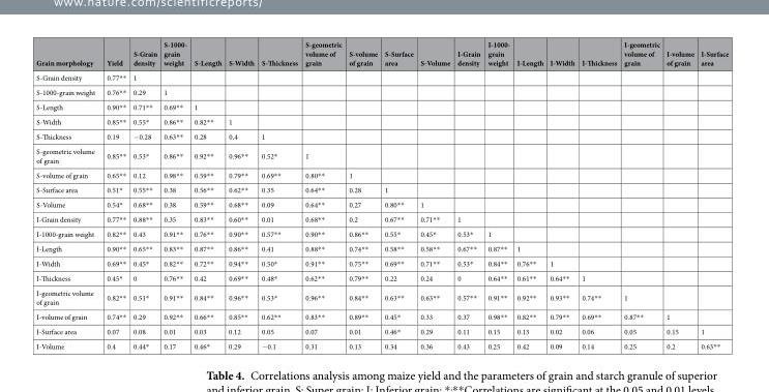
<table><thead><tr><td>Grain morphology</td><td>Yield</td><td>S-Grain density</td><td>S-1000- grain weight</td><td>S-Length</td><td>S-Width</td><td>S-Thickness</td><td>S-geometric volume of grain</td><td>S-volume of grain</td><td>S-Surface area</td><td>S-Volume</td><td>I-Grain density</td><td>I-1000- grain weight</td><td>I-Length</td><td>I-Width</td><td>I-Thickness</td><td>I-geometric volume of grain</td><td>I-volume of grain</td><td>I-Surface area</td></tr></thead><tbody><tr><td>S-Grain density</td><td>0.77**</td><td>1</td><td></td><td></td><td></td><td></td><td></td><td></td><td></td><td></td><td></td><td></td><td></td><td></td><td></td><td></td><td></td><td></td></tr><tr><td>S-1000-grain weight</td><td>0.76**</td><td>0.29</td><td>1</td><td></td><td></td><td></td><td></td><td></td><td></td><td></td><td></td><td></td><td></td><td></td><td></td><td></td><td></td><td></td></tr><tr><td>S-Length</td><td>0.90**</td><td>0.71**</td><td>0.69**</td><td>1</td><td></td><td></td><td></td><td></td><td></td><td></td><td></td><td></td><td></td><td></td><td></td><td></td><td></td><td></td></tr><tr><td>S-Width</td><td>0.85**</td><td>0.55*</td><td>0.86**</td><td>0.82**</td><td>1</td><td></td><td></td><td></td><td></td><td></td><td></td><td></td><td></td><td></td><td></td><td></td><td></td><td></td></tr><tr><td>S-Thickness</td><td>0.19</td><td>−0.28</td><td>0.63**</td><td>0.28</td><td>0.4</td><td>1</td><td></td><td></td><td></td><td></td><td></td><td></td><td></td><td></td><td></td><td></td><td></td><td></td></tr><tr><td>S-geometric volume of grain</td><td>0.85**</td><td>0.53*</td><td>0.86**</td><td>0.92**</td><td>0.96**</td><td>0.52*</td><td>1</td><td></td><td></td><td></td><td></td><td></td><td></td><td></td><td></td><td></td><td></td><td></td></tr><tr><td>S-volume of grain</td><td>0.65**</td><td>0.12</td><td>0.98**</td><td>0.59**</td><td>0.79**</td><td>0.69**</td><td>0.80**</td><td>1</td><td></td><td></td><td></td><td></td><td></td><td></td><td></td><td></td><td></td><td></td></tr><tr><td>S-Surface area</td><td>0.51*</td><td>0.55**</td><td>0.38</td><td>0.56**</td><td>0.62**</td><td>0.35</td><td>0.64**</td><td>0.28</td><td>1</td><td></td><td></td><td></td><td></td><td></td><td></td><td></td><td></td><td></td></tr><tr><td>S-Volume</td><td>0.54*</td><td>0.68**</td><td>0.38</td><td>0.59**</td><td>0.68**</td><td>0.09</td><td>0.64**</td><td>0.27</td><td>0.80**</td><td>1</td><td></td><td></td><td></td><td></td><td></td><td></td><td></td><td></td></tr><tr><td>I-Grain density</td><td>0.77**</td><td>0.88**</td><td>0.35</td><td>0.83**</td><td>0.60**</td><td>0.01</td><td>0.68**</td><td>0.2</td><td>0.67**</td><td>0.71**</td><td>1</td><td></td><td></td><td></td><td></td><td></td><td></td><td></td></tr><tr><td>I-1000-grain weight</td><td>0.82**</td><td>0.43</td><td>0.91**</td><td>0.76**</td><td>0.90**</td><td>0.57**</td><td>0.90**</td><td>0.86**</td><td>0.55*</td><td>0.45*</td><td>0.53*</td><td>1</td><td></td><td></td><td></td><td></td><td></td><td></td></tr><tr><td>I-Length</td><td>0.90**</td><td>0.65**</td><td>0.83**</td><td>0.87**</td><td>0.86**</td><td>0.41</td><td>0.88**</td><td>0.74**</td><td>0.58**</td><td>0.58**</td><td>0.67**</td><td>0.87**</td><td>1</td><td></td><td></td><td></td><td></td><td></td></tr><tr><td>I-Width</td><td>0.69**</td><td>0.45*</td><td>0.82**</td><td>0.72**</td><td>0.94**</td><td>0.50*</td><td>0.91**</td><td>0.75**</td><td>0.69**</td><td>0.71**</td><td>0.53*</td><td>0.84**</td><td>0.76**</td><td>1</td><td></td><td></td><td></td><td></td></tr><tr><td>I-Thickness</td><td>0.45*</td><td>0</td><td>0.76**</td><td>0.42</td><td>0.69**</td><td>0.48*</td><td>0.62**</td><td>0.79**</td><td>0.22</td><td>0.24</td><td>0</td><td>0.64**</td><td>0.61**</td><td>0.64**</td><td>1</td><td></td><td></td><td></td></tr><tr><td>I-geometric volume of grain</td><td>0.82**</td><td>0.51*</td><td>0.91**</td><td>0.84**</td><td>0.96**</td><td>0.53*</td><td>0.96**</td><td>0.84**</td><td>0.63**</td><td>0.63**</td><td>0.57**</td><td>0.91**</td><td>0.92**</td><td>0.93**</td><td>0.74**</td><td>1</td><td></td><td></td></tr><tr><td>I-volume of grain</td><td>0.74**</td><td>0.29</td><td>0.92**</td><td>0.66**</td><td>0.85**</td><td>0.62**</td><td>0.83**</td><td>0.89**</td><td>0.45*</td><td>0.33</td><td>0.37</td><td>0.98**</td><td>0.82**</td><td>0.79**</td><td>0.69**</td><td>0.87**</td><td>1</td><td></td></tr><tr><td>I-Surface area</td><td>0.07</td><td>0.08</td><td>0.01</td><td>0.03</td><td>0.12</td><td>0.05</td><td>0.07</td><td>0.01</td><td>0.46*</td><td>0.29</td><td>0.11</td><td>0.15</td><td>0.13</td><td>0.02</td><td>0.06</td><td>0.05</td><td>0.15</td><td>1</td></tr><tr><td>I-Volume</td><td>0.4</td><td>0.44*</td><td>0.17</td><td>0.46*</td><td>0.29</td><td>−0.1</td><td>0.31</td><td>0.13</td><td>0.34</td><td>0.36</td><td>0.43</td><td>0.25</td><td>0.42</td><td>0.09</td><td>0.14</td><td>0.25</td><td>0.2</td><td>0.63**</td></tr></tbody></table>